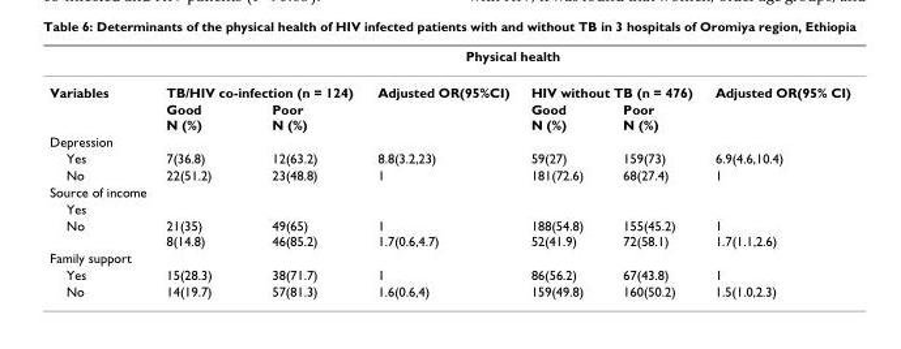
<table><thead><tr><td rowspan="3">Variables</td><td colspan="6">Physical health</td></tr><tr><td colspan="2">TB/HIV co-infection (n = 124)</td><td rowspan="2">Adjusted OR(95%CI)</td><td colspan="2">HIV without TB (n = 476)</td><td rowspan="2">Adjusted OR(95% CI)</td></tr><tr><td>Good N (%)</td><td>Poor N (%)</td><td>Good N (%)</td><td>Poor N (%)</td></tr></thead><tbody><tr><td colspan="7">Depression</td></tr><tr><td>Yes</td><td>7(36.8)</td><td>12(63.2)</td><td>8.8(3.2,23)</td><td>59(27)</td><td>159(73)</td><td>6.9(4.6,10.4)</td></tr><tr><td>No</td><td>22(51.2)</td><td>23(48.8)</td><td>1</td><td>181(72.6)</td><td>68(27.4)</td><td>1</td></tr><tr><td colspan="7">Source of income</td></tr><tr><td colspan="7">Yes</td></tr><tr><td>No</td><td>21(35) 8(14.8)</td><td>49(65) 46(85.2)</td><td>1 1.7(0.6,4.7)</td><td>188(54.8) 52(41.9)</td><td>155(45.2) 72(58.1)</td><td>1 1.7(1.1,2.6)</td></tr><tr><td colspan="7">Family support</td></tr><tr><td>Yes</td><td>15(28.3)</td><td>38(71.7)</td><td>1</td><td>86(56.2)</td><td>67(43.8)</td><td>1</td></tr><tr><td>No</td><td>14(19.7)</td><td>57(81.3)</td><td>1.6(0.6,4)</td><td>159(49.8)</td><td>160(50.2)</td><td>1.5(1.0,2.3)</td></tr></tbody></table>